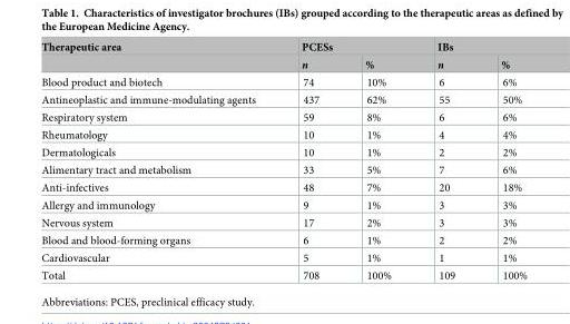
<table><thead><tr><td rowspan="2">Therapeutic area</td><td colspan="2">PCESs</td><td colspan="2">IBs</td></tr><tr><td>n</td><td>%</td><td>n</td><td>%</td></tr></thead><tbody><tr><td>Blood product and biotech</td><td>74</td><td>10%</td><td>6</td><td>6%</td></tr><tr><td>Antineoplastic and immune-modulating agents</td><td>437</td><td>62%</td><td>55</td><td>50%</td></tr><tr><td>Respiratory system</td><td>59</td><td>8%</td><td>6</td><td>6%</td></tr><tr><td>Rheumatology</td><td>10</td><td>1%</td><td>4</td><td>4%</td></tr><tr><td>Dermatologicals</td><td>10</td><td>1%</td><td>2</td><td>2%</td></tr><tr><td>Alimentary tract and metabolism</td><td>33</td><td>5%</td><td>7</td><td>6%</td></tr><tr><td>Anti-infectives</td><td>48</td><td>7%</td><td>20</td><td>18%</td></tr><tr><td>Allergy and immunology</td><td>9</td><td>1%</td><td>3</td><td>3%</td></tr><tr><td>Nervous system</td><td>17</td><td>2%</td><td>3</td><td>3%</td></tr><tr><td>Blood and blood-forming organs</td><td>6</td><td>1%</td><td>2</td><td>2%</td></tr><tr><td>Cardiovascular</td><td>5</td><td>1%</td><td>1</td><td>1%</td></tr><tr><td>Total</td><td>708</td><td>100%</td><td>109</td><td>100%</td></tr></tbody></table>